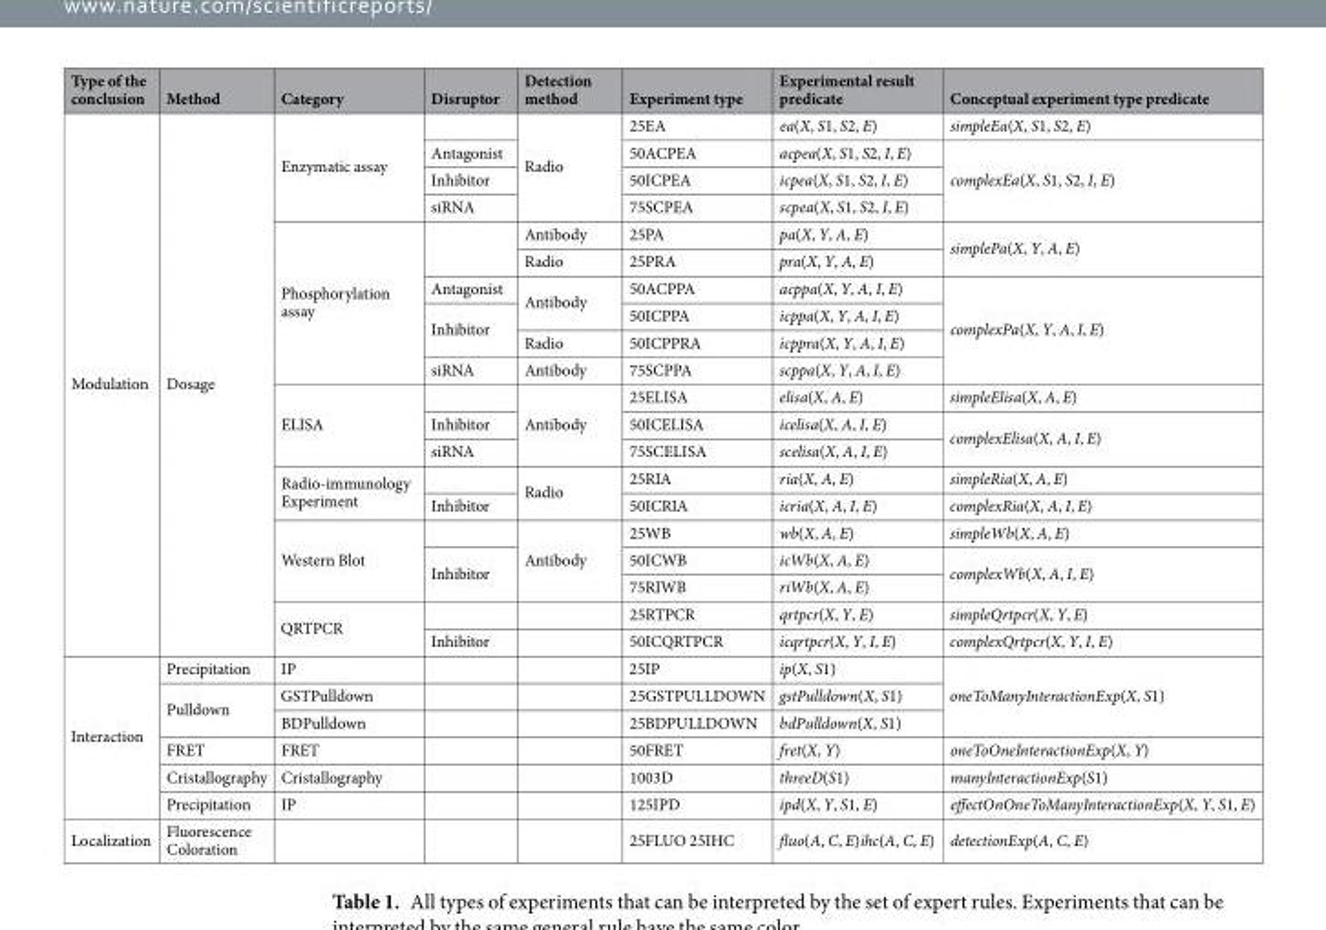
<table><thead><tr><td>Type of the conclusion</td><td>Method</td><td>Category</td><td>Disruptor</td><td>Detection method</td><td>Experiment type</td><td>Experimental result predicate</td><td>Conceptual experiment type predicate</td></tr></thead><tbody><tr><td rowspan="20">Modulation</td><td rowspan="20">Dosage</td><td rowspan="4">Enzymatic assay</td><td></td><td rowspan="4">Radio</td><td>25EA</td><td>ea(X, S1, S2, E)</td><td>simpleEa(X, S1, S2, E)</td></tr><tr><td>Antagonist</td><td>50ACPEA</td><td>acpea(X, S1, S2, I, E)</td><td rowspan="3">complexEa(X, S1, S2, I, E)</td></tr><tr><td>Inhibitor</td><td>50ICPEA</td><td>icpea(X, S1, S2, I, E)</td></tr><tr><td>siRNA</td><td>75SCPEA</td><td>scpea(X, S1, S2, I, E)</td></tr><tr><td rowspan="6">Phosphorylation assay</td><td rowspan="2"></td><td>Antibody</td><td>25PA</td><td>pa(X, Y, A, E)</td><td rowspan="2">simplePa(X, Y, A, E)</td></tr><tr><td>Radio</td><td>25PRA</td><td>pra(X, Y, A, E)</td></tr><tr><td>Antagonist</td><td rowspan="2">Antibody</td><td>50ACPPA</td><td>acppa(X, Y, A, I, E)</td><td rowspan="4">complexPa(X, Y, A, I, E)</td></tr><tr><td rowspan="2">Inhibitor</td><td>50ICPPA</td><td>icppa(X, Y, A, I, E)</td></tr><tr><td>Radio</td><td>50ICPPRA</td><td>icppra(X, Y, A, I, E)</td></tr><tr><td>siRNA</td><td>Antibody</td><td>75SCPPA</td><td>scppa(X, Y, A, I, E)</td></tr><tr><td rowspan="3">ELISA</td><td></td><td rowspan="3">Antibody</td><td>25ELISA</td><td>elisa(X, A, E)</td><td>simpleElisa(X, A, E)</td></tr><tr><td>Inhibitor</td><td>50ICELISA</td><td>icelisa(X, A, I, E)</td><td rowspan="2">complexElisa(X, A, I, E)</td></tr><tr><td>siRNA</td><td>75SCELISA</td><td>scelisa(X, A, I, E)</td></tr><tr><td rowspan="2">Radio-immunology Experiment</td><td></td><td rowspan="2">Radio</td><td>25RIA</td><td>ria(X, A, E)</td><td>simpleRia(X, A, E)</td></tr><tr><td>Inhibitor</td><td>50ICRIA</td><td>icria(X, A, I, E)</td><td>complexRia(X, A, I, E)</td></tr><tr><td rowspan="3">Western Blot</td><td></td><td rowspan="3">Antibody</td><td>25WB</td><td>wb(X, A, E)</td><td>simpleWb(X, A, E)</td></tr><tr><td rowspan="2">Inhibitor</td><td>50ICWB</td><td>icWb(X, A, E)</td><td rowspan="2">complexWb(X, A, I, E)</td></tr><tr><td>75RIWB</td><td>riWb(X, A, E)</td></tr><tr><td rowspan="2">QRTPCR</td><td></td><td></td><td>25RTPCR</td><td>qrtpcr(X, Y, E)</td><td>simpleQrtpcr(X, Y, E)</td></tr><tr><td>Inhibitor</td><td></td><td>50ICQRTPCR</td><td>icqrtpcr(X, Y, I, E)</td><td>complexQrtpcr(X, Y, I, E)</td></tr><tr><td rowspan="6">Interaction</td><td>Precipitation</td><td>IP</td><td></td><td></td><td>25IP</td><td>ip(X, S1)</td><td rowspan="3">oneToManyInteractionExp(X, S1)</td></tr><tr><td rowspan="2">Pulldown</td><td>GSTPulldown</td><td></td><td></td><td>25GSTPULLDOWN</td><td>gstPulldown(X, S1)</td></tr><tr><td>BDPulldown</td><td></td><td></td><td>25BDPULLDOWN</td><td>bdPulldown(X, S1)</td></tr><tr><td>FRET</td><td>FRET</td><td></td><td></td><td>50FRET</td><td>fret(X, Y)</td><td>oneToOneInteractionExp(X, Y)</td></tr><tr><td>Cristallography</td><td>Cristallography</td><td></td><td></td><td>1003D</td><td>threeD(S1)</td><td>manyInteractionExp(S1)</td></tr><tr><td>Precipitation</td><td>IP</td><td></td><td></td><td>125IPD</td><td>ipd(X, Y, S1, E)</td><td>effectOnOneToManyInteractionExp(X, Y, S1, E)</td></tr><tr><td>Localization</td><td>Fluorescence Coloration</td><td></td><td></td><td></td><td>25FLUO 25IHC</td><td>fluo(A, C, E)ihc(A, C, E)</td><td>detectionExp(A, C, E)</td></tr></tbody></table>